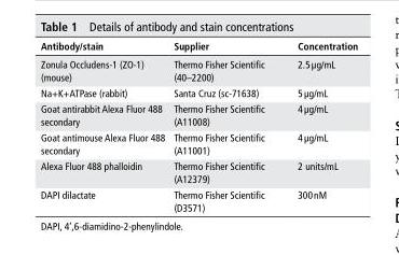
<table><thead><tr><td>Antibody/stain</td><td>Supplier</td><td>Concentration</td></tr></thead><tbody><tr><td>Zonula Occludens-1 (ZO-1) (mouse)</td><td>Thermo Fisher Scientific (40–2200)</td><td>2.5 µg/mL</td></tr><tr><td>Na+K+ATPase (rabbit)</td><td>Santa Cruz (sc-71638)</td><td>5 µg/mL</td></tr><tr><td>Goat antirabbit Alexa Fluor 488 secondary</td><td>Thermo Fisher Scientific (A11008)</td><td>4 µg/mL</td></tr><tr><td>Goat antimouse Alexa Fluor 488 secondary</td><td>Thermo Fisher Scientific (A11001)</td><td>4 µg/mL</td></tr><tr><td>Alexa Fluor 488 phalloidin</td><td>Thermo Fisher Scientific (A12379)</td><td>2 units/mL</td></tr><tr><td>DAPI dilactate</td><td>Thermo Fisher Scientific (D3571)</td><td>300 nM</td></tr></tbody></table>